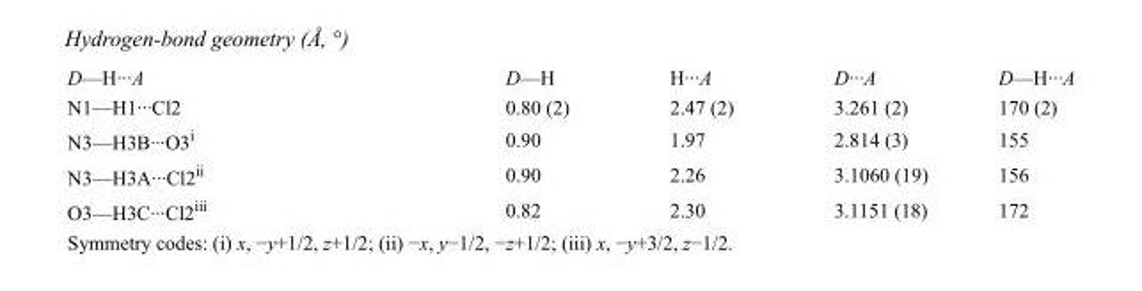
<table><tbody><tr><td>D—H···A</td><td>D—H</td><td>H···A</td><td>D···A</td><td>D—H···A</td></tr><tr><td>N1—H1···Cl2</td><td>0.80 (2)</td><td>2.47 (2)</td><td>3.261 (2)</td><td>170 (2)</td></tr><tr><td>N3—H3B···O3<sup>i</sup></td><td>0.90</td><td>1.97</td><td>2.814 (3)</td><td>155</td></tr><tr><td>N3—H3A···Cl2<sup>ii</sup></td><td>0.90</td><td>2.26</td><td>3.1060 (19)</td><td>156</td></tr><tr><td>O3—H3C···Cl2<sup>iii</sup></td><td>0.82</td><td>2.30</td><td>3.1151 (18)</td><td>172</td></tr></tbody></table>